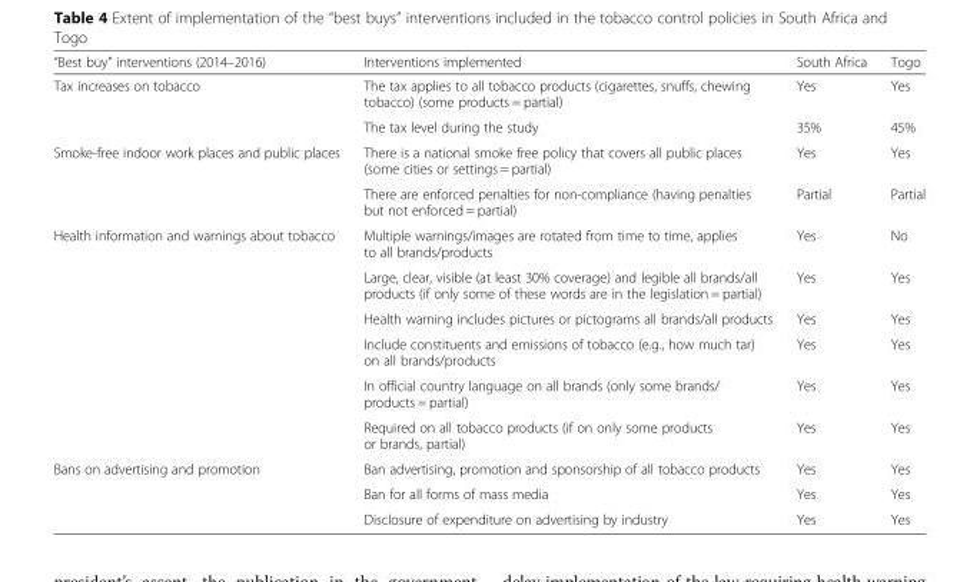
<table><thead><tr><td>“Best buy” interventions (2014–2016)</td><td>Interventions implemented</td><td>South Africa</td><td>Togo</td></tr></thead><tbody><tr><td rowspan="2">Tax increases on tobacco</td><td>The tax applies to all tobacco products (cigarettes, snuffs, chewing tobacco) (some products = partial)</td><td>Yes</td><td>Yes</td></tr><tr><td>The tax level during the study</td><td>35%</td><td>45%</td></tr><tr><td rowspan="2">Smoke-free indoor work places and public places</td><td>There is a national smoke free policy that covers all public places (some cities or settings = partial)</td><td>Yes</td><td>Yes</td></tr><tr><td>There are enforced penalties for non-compliance (having penalties but not enforced = partial)</td><td>Partial</td><td>Partial</td></tr><tr><td rowspan="6">Health information and warnings about tobacco</td><td>Multiple warnings/images are rotated from time to time, applies to all brands/products</td><td>Yes</td><td>No</td></tr><tr><td>Large, clear, visible (at least 30% coverage) and legible all brands/all products (if only some of these words are in the legislation = partial)</td><td>Yes</td><td>Yes</td></tr><tr><td>Health warning includes pictures or pictograms all brands/all products</td><td>Yes</td><td>Yes</td></tr><tr><td>Include constituents and emissions of tobacco (e.g., how much tar) on all brands/products</td><td>Yes</td><td>Yes</td></tr><tr><td>In official country language on all brands (only some brands/ products = partial)</td><td>Yes</td><td>Yes</td></tr><tr><td>Required on all tobacco products (if on only some products or brands, partial)</td><td>Yes</td><td>Yes</td></tr><tr><td rowspan="3">Bans on advertising and promotion</td><td>Ban advertising, promotion and sponsorship of all tobacco products</td><td>Yes</td><td>Yes</td></tr><tr><td>Ban for all forms of mass media</td><td>Yes</td><td>Yes</td></tr><tr><td>Disclosure of expenditure on advertising by industry</td><td>Yes</td><td>Yes</td></tr></tbody></table>